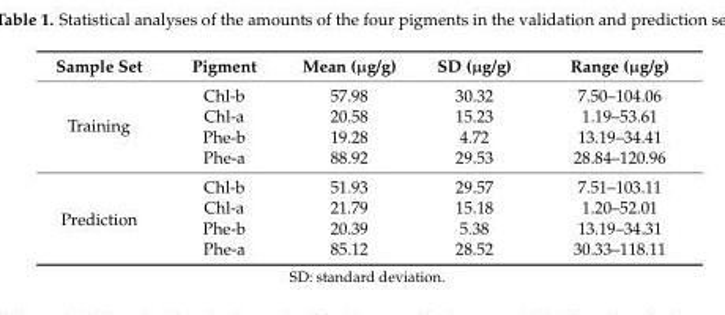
<table><thead><tr><td>Sample Set</td><td>Pigment</td><td>Mean (µg/g)</td><td>SD (µg/g)</td><td>Range (µg/g)</td></tr></thead><tbody><tr><td rowspan="4">Training</td><td>Chl-b</td><td>57.98</td><td>30.32</td><td>7.50–104.06</td></tr><tr><td>Chl-a</td><td>20.58</td><td>15.23</td><td>1.19–53.61</td></tr><tr><td>Phe-b</td><td>19.28</td><td>4.72</td><td>13.19–34.41</td></tr><tr><td>Phe-a</td><td>88.92</td><td>29.53</td><td>28.84–120.96</td></tr><tr><td rowspan="4">Prediction</td><td>Chl-b</td><td>51.93</td><td>29.57</td><td>7.51–103.11</td></tr><tr><td>Chl-a</td><td>21.79</td><td>15.18</td><td>1.20–52.01</td></tr><tr><td>Phe-b</td><td>20.39</td><td>5.38</td><td>13.19–34.31</td></tr><tr><td>Phe-a</td><td>85.12</td><td>28.52</td><td>30.33–118.11</td></tr></tbody></table>